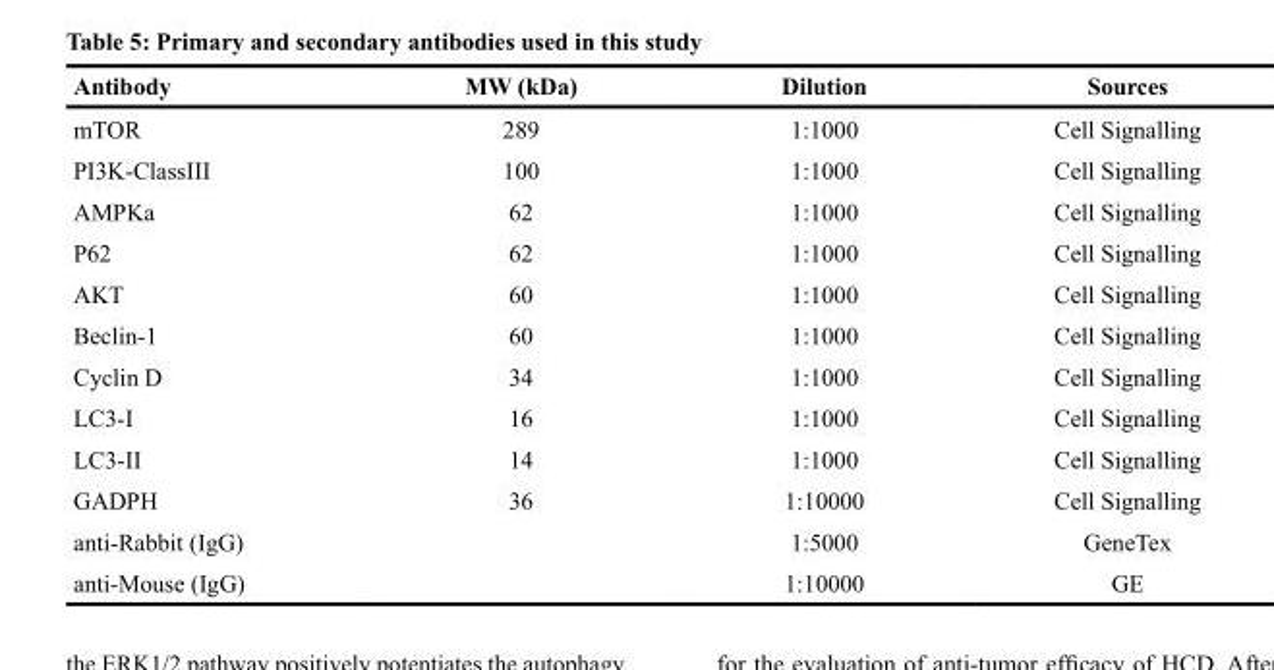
<table><thead><tr><td>Antibody</td><td>MW (kDa)</td><td>Dilution</td><td>Sources</td></tr></thead><tbody><tr><td>mTOR</td><td>289</td><td>1:1000</td><td>Cell Signalling</td></tr><tr><td>PI3K-ClassIII</td><td>100</td><td>1:1000</td><td>Cell Signalling</td></tr><tr><td>AMPKa</td><td>62</td><td>1:1000</td><td>Cell Signalling</td></tr><tr><td>P62</td><td>62</td><td>1:1000</td><td>Cell Signalling</td></tr><tr><td>AKT</td><td>60</td><td>1:1000</td><td>Cell Signalling</td></tr><tr><td>Beclin-1</td><td>60</td><td>1:1000</td><td>Cell Signalling</td></tr><tr><td>Cyclin D</td><td>34</td><td>1:1000</td><td>Cell Signalling</td></tr><tr><td>LC3-I</td><td>16</td><td>1:1000</td><td>Cell Signalling</td></tr><tr><td>LC3-II</td><td>14</td><td>1:1000</td><td>Cell Signalling</td></tr><tr><td>GADPH</td><td>36</td><td>1:10000</td><td>Cell Signalling</td></tr><tr><td>anti-Rabbit (IgG)</td><td></td><td>1:5000</td><td>GeneTex</td></tr><tr><td>anti-Mouse (IgG)</td><td></td><td>1:10000</td><td>GE</td></tr></tbody></table>